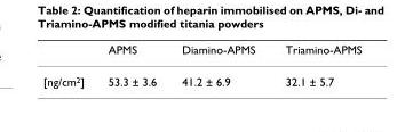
<table><thead><tr><td></td><td>APMS</td><td>Diamino-APMS</td><td>Triamino-APMS</td></tr></thead><tbody><tr><td>[ng/cm<sup>2</sup>]</td><td>53.3 ± 3.6</td><td>41.2 ± 6.9</td><td>32.1 ± 5.7</td></tr></tbody></table>